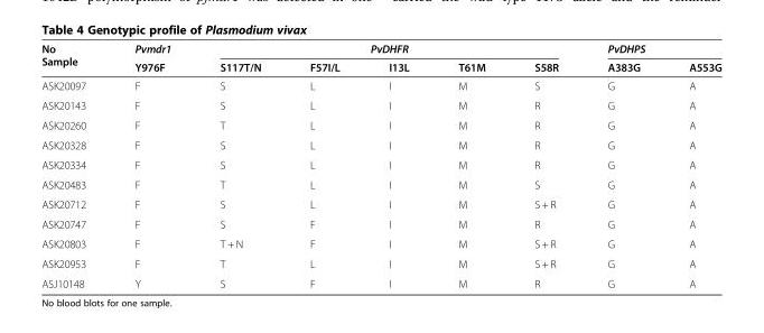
<table><thead><tr><td rowspan="2">No Sample</td><td rowspan="2">Pvmdr1 Y976F</td><td colspan="5">PvDHFR</td><td colspan="2">PvDHPS</td></tr><tr><td>S117T/N</td><td>F57I/L</td><td>I13L</td><td>T61M</td><td>S58R</td><td>A383G</td><td>A553G</td></tr></thead><tbody><tr><td>ASK20097</td><td>F</td><td>S</td><td>L</td><td>I</td><td>M</td><td>S</td><td>G</td><td>A</td></tr><tr><td>ASK20143</td><td>F</td><td>S</td><td>L</td><td>I</td><td>M</td><td>R</td><td>G</td><td>A</td></tr><tr><td>ASK20260</td><td>F</td><td>T</td><td>L</td><td>I</td><td>M</td><td>R</td><td>G</td><td>A</td></tr><tr><td>ASK20328</td><td>F</td><td>S</td><td>L</td><td>I</td><td>M</td><td>R</td><td>G</td><td>A</td></tr><tr><td>ASK20334</td><td>F</td><td>S</td><td>L</td><td>I</td><td>M</td><td>R</td><td>G</td><td>A</td></tr><tr><td>ASK20483</td><td>F</td><td>T</td><td>L</td><td>I</td><td>M</td><td>S</td><td>G</td><td>A</td></tr><tr><td>ASK20712</td><td>F</td><td>S</td><td>L</td><td>I</td><td>M</td><td>S + R</td><td>G</td><td>A</td></tr><tr><td>ASK20747</td><td>F</td><td>S</td><td>F</td><td>I</td><td>M</td><td>R</td><td>G</td><td>A</td></tr><tr><td>ASK20803</td><td>F</td><td>T + N</td><td>F</td><td>I</td><td>M</td><td>S + R</td><td>G</td><td>A</td></tr><tr><td>ASK20953</td><td>F</td><td>T</td><td>L</td><td>I</td><td>M</td><td>S + R</td><td>G</td><td>A</td></tr><tr><td>ASJ10148</td><td>Y</td><td>S</td><td>F</td><td>I</td><td>M</td><td>R</td><td>G</td><td>A</td></tr></tbody></table>